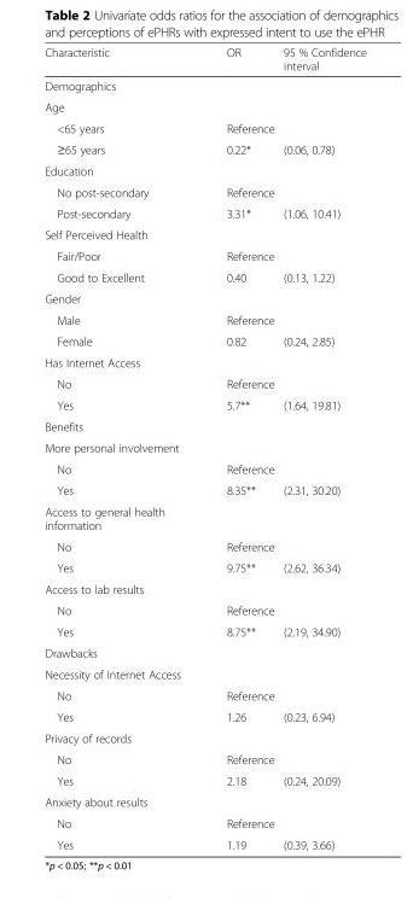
<table><thead><tr><td>Characteristic</td><td>OR</td><td>95 % Confidence interval</td></tr></thead><tbody><tr><td colspan="3">Demographics</td></tr><tr><td colspan="3">Age</td></tr><tr><td>&lt;65 years</td><td>Reference</td><td></td></tr><tr><td>≥65 years</td><td>0.22*</td><td>(0.06, 0.78)</td></tr><tr><td colspan="3">Education</td></tr><tr><td>No post-secondary</td><td>Reference</td><td></td></tr><tr><td>Post-secondary</td><td>3.31*</td><td>(1.06, 10.41)</td></tr><tr><td colspan="3">Self Perceived Health</td></tr><tr><td>Fair/Poor</td><td>Reference</td><td></td></tr><tr><td>Good to Excellent</td><td>0.40</td><td>(0.13, 1.22)</td></tr><tr><td colspan="3">Gender</td></tr><tr><td>Male</td><td>Reference</td><td></td></tr><tr><td>Female</td><td>0.82</td><td>(0.24, 2.85)</td></tr><tr><td colspan="3">Has Internet Access</td></tr><tr><td>No</td><td>Reference</td><td></td></tr><tr><td>Yes</td><td>5.7**</td><td>(1.64, 19.81)</td></tr><tr><td colspan="3">Benefits</td></tr><tr><td colspan="3">More personal involvement</td></tr><tr><td>No</td><td>Reference</td><td></td></tr><tr><td>Yes</td><td>8.35**</td><td>(2.31, 30.20)</td></tr><tr><td colspan="3">Access to general health information</td></tr><tr><td>No</td><td>Reference</td><td></td></tr><tr><td>Yes</td><td>9.75**</td><td>(2.62, 36.34)</td></tr><tr><td colspan="3">Access to lab results</td></tr><tr><td>No</td><td>Reference</td><td></td></tr><tr><td>Yes</td><td>8.75**</td><td>(2.19, 34.90)</td></tr><tr><td colspan="3">Drawbacks</td></tr><tr><td colspan="3">Necessity of Internet Access</td></tr><tr><td>No</td><td>Reference</td><td></td></tr><tr><td>Yes</td><td>1.26</td><td>(0.23, 6.94)</td></tr><tr><td colspan="3">Privacy of records</td></tr><tr><td>No</td><td>Reference</td><td></td></tr><tr><td>Yes</td><td>2.18</td><td>(0.24, 20.09)</td></tr><tr><td colspan="3">Anxiety about results</td></tr><tr><td>No</td><td>Reference</td><td></td></tr><tr><td>Yes</td><td>1.19</td><td>(0.39, 3.66)</td></tr></tbody></table>